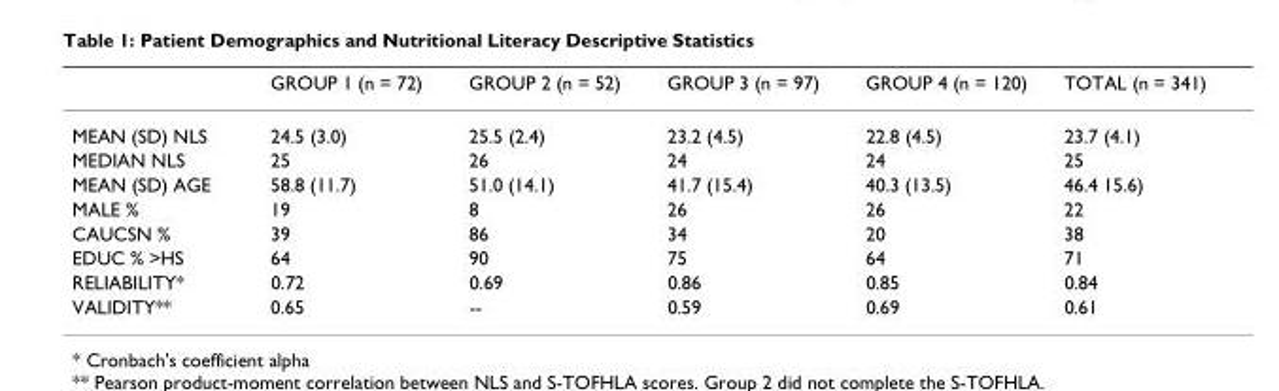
<table><thead><tr><td></td><td>GROUP 1 (n = 72)</td><td>GROUP 2 (n = 52)</td><td>GROUP 3 (n = 97)</td><td>GROUP 4 (n = 120)</td><td>TOTAL (n = 341)</td></tr></thead><tbody><tr><td>MEAN (SD) NLS</td><td>24.5 (3.0)</td><td>25.5 (2.4)</td><td>23.2 (4.5)</td><td>22.8 (4.5)</td><td>23.7 (4.1)</td></tr><tr><td>MEDIAN NLS</td><td>25</td><td>26</td><td>24</td><td>24</td><td>25</td></tr><tr><td>MEAN (SD) AGE</td><td>58.8 (11.7)</td><td>51.0 (14.1)</td><td>41.7 (15.4)</td><td>40.3 (13.5)</td><td>46.4 15.6)</td></tr><tr><td>MALE %</td><td>19</td><td>8</td><td>26</td><td>26</td><td>22</td></tr><tr><td>CAUCSN %</td><td>39</td><td>86</td><td>34</td><td>20</td><td>38</td></tr><tr><td>EDUC % &gt;HS</td><td>64</td><td>90</td><td>75</td><td>64</td><td>71</td></tr><tr><td>RELIABILITY*</td><td>0.72</td><td>0.69</td><td>0.86</td><td>0.85</td><td>0.84</td></tr><tr><td>VALIDITY**</td><td>0.65</td><td>--</td><td>0.59</td><td>0.69</td><td>0.61</td></tr></tbody></table>